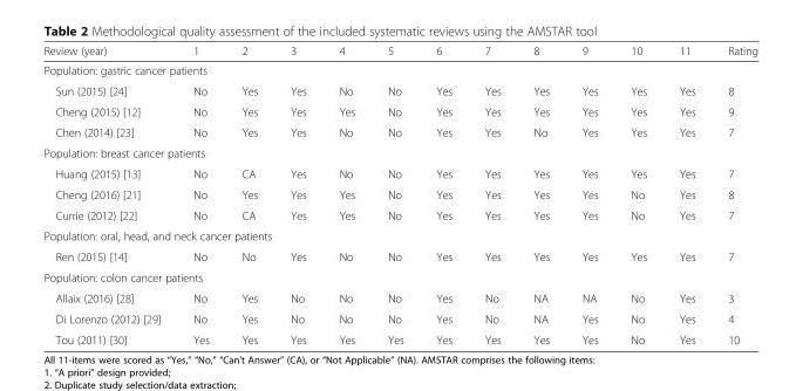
<table><thead><tr><td>Review (year)</td><td>1</td><td>2</td><td>3</td><td>4</td><td>5</td><td>6</td><td>7</td><td>8</td><td>9</td><td>10</td><td>11</td><td>Rating</td></tr></thead><tbody><tr><td colspan="13">Population: gastric cancer patients</td></tr><tr><td>Sun (2015) [24]</td><td>No</td><td>Yes</td><td>Yes</td><td>No</td><td>No</td><td>Yes</td><td>Yes</td><td>Yes</td><td>Yes</td><td>Yes</td><td>Yes</td><td>8</td></tr><tr><td>Cheng (2015) [12]</td><td>No</td><td>Yes</td><td>Yes</td><td>Yes</td><td>No</td><td>Yes</td><td>Yes</td><td>Yes</td><td>Yes</td><td>Yes</td><td>Yes</td><td>9</td></tr><tr><td>Chen (2014) [23]</td><td>No</td><td>Yes</td><td>Yes</td><td>No</td><td>No</td><td>Yes</td><td>Yes</td><td>No</td><td>Yes</td><td>Yes</td><td>Yes</td><td>7</td></tr><tr><td colspan="13">Population: breast cancer patients</td></tr><tr><td>Huang (2015) [13]</td><td>No</td><td>CA</td><td>Yes</td><td>No</td><td>No</td><td>Yes</td><td>Yes</td><td>Yes</td><td>Yes</td><td>Yes</td><td>Yes</td><td>7</td></tr><tr><td>Cheng (2016) [21]</td><td>No</td><td>Yes</td><td>Yes</td><td>Yes</td><td>No</td><td>Yes</td><td>Yes</td><td>Yes</td><td>Yes</td><td>No</td><td>Yes</td><td>8</td></tr><tr><td>Currie (2012) [22]</td><td>No</td><td>CA</td><td>Yes</td><td>Yes</td><td>No</td><td>Yes</td><td>Yes</td><td>Yes</td><td>Yes</td><td>No</td><td>Yes</td><td>7</td></tr><tr><td colspan="13">Population: oral, head, and neck cancer patients</td></tr><tr><td>Ren (2015) [14]</td><td>No</td><td>No</td><td>Yes</td><td>No</td><td>No</td><td>Yes</td><td>Yes</td><td>Yes</td><td>Yes</td><td>Yes</td><td>Yes</td><td>7</td></tr><tr><td colspan="13">Population: colon cancer patients</td></tr><tr><td>Allaix (2016) [28]</td><td>No</td><td>Yes</td><td>No</td><td>No</td><td>No</td><td>Yes</td><td>No</td><td>NA</td><td>NA</td><td>No</td><td>Yes</td><td>3</td></tr><tr><td>Di Lorenzo (2012) [29]</td><td>No</td><td>Yes</td><td>No</td><td>No</td><td>No</td><td>Yes</td><td>No</td><td>NA</td><td>Yes</td><td>No</td><td>Yes</td><td>4</td></tr><tr><td>Tou (2011) [30]</td><td>Yes</td><td>Yes</td><td>Yes</td><td>Yes</td><td>Yes</td><td>Yes</td><td>Yes</td><td>Yes</td><td>Yes</td><td>No</td><td>Yes</td><td>10</td></tr></tbody></table>